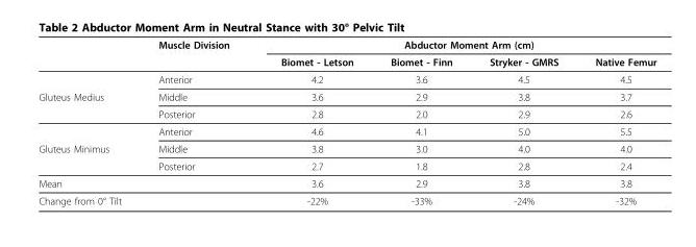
<table><thead><tr><td rowspan="2"></td><td rowspan="2">Muscle Division</td><td colspan="4">Abductor Moment Arm (cm)</td></tr><tr><td>Biomet - Letson</td><td>Biomet - Finn</td><td>Stryker - GMRS</td><td>Native Femur</td></tr></thead><tbody><tr><td></td><td>Anterior</td><td>4.2</td><td>3.6</td><td>4.5</td><td>4.5</td></tr><tr><td rowspan="3">Gluteus Medius</td><td>Middle</td><td>3.6</td><td>2.9</td><td>3.8</td><td>3.7</td></tr><tr><td>Posterior</td><td>2.8</td><td>2.0</td><td>2.9</td><td>2.6</td></tr><tr><td>Anterior</td><td>4.6</td><td>4.1</td><td>5.0</td><td>5.5</td></tr><tr><td rowspan="2">Gluteus Minimus</td><td>Middle</td><td>3.8</td><td>3.0</td><td>4.0</td><td>4.0</td></tr><tr><td>Posterior</td><td>2.7</td><td>1.8</td><td>2.8</td><td>2.4</td></tr><tr><td>Mean</td><td></td><td>3.6</td><td>2.9</td><td>3.8</td><td>3.8</td></tr><tr><td>Change from 0° Tilt</td><td></td><td>-22%</td><td>-33%</td><td>-24%</td><td>-32%</td></tr></tbody></table>